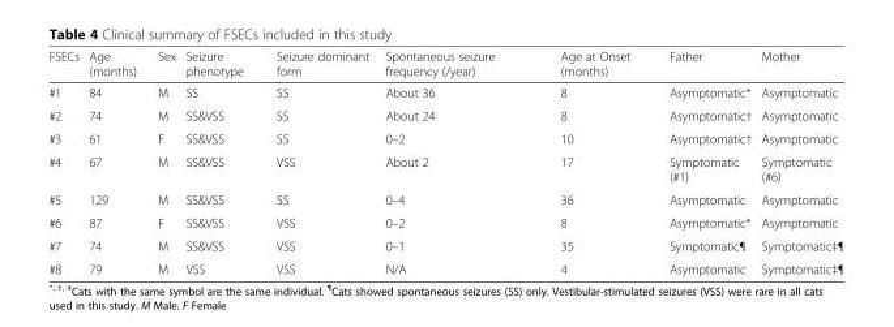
<table><thead><tr><td>FSECs</td><td>Age (months)</td><td>Sex</td><td>Seizure phenotype</td><td>Seizure dominant form</td><td>Spontaneous seizure frequency (/year)</td><td>Age at Onset (months)</td><td>Father</td><td>Mother</td></tr></thead><tbody><tr><td>#1</td><td>84</td><td>M</td><td>SS</td><td>SS</td><td>About 36</td><td>8</td><td>Asymptomatic*</td><td>Asymptomatic</td></tr><tr><td>#2</td><td>74</td><td>M</td><td>SS&amp;VSS</td><td>SS</td><td>About 24</td><td>8</td><td>Asymptomatic†</td><td>Asymptomatic</td></tr><tr><td>#3</td><td>61</td><td>F</td><td>SS&amp;VSS</td><td>SS</td><td>0–2</td><td>10</td><td>Asymptomatic†</td><td>Asymptomatic</td></tr><tr><td>#4</td><td>67</td><td>M</td><td>SS&amp;VSS</td><td>VSS</td><td>About 2</td><td>17</td><td>Symptomatic (#1)</td><td>Symptomatic (#6)</td></tr><tr><td>#5</td><td>129</td><td>M</td><td>SS&amp;VSS</td><td>SS</td><td>0–4</td><td>36</td><td>Asymptomatic</td><td>Asymptomatic</td></tr><tr><td>#6</td><td>87</td><td>F</td><td>SS&amp;VSS</td><td>VSS</td><td>0–2</td><td>8</td><td>Asymptomatic*</td><td>Asymptomatic</td></tr><tr><td>#7</td><td>74</td><td>M</td><td>SS&amp;VSS</td><td>VSS</td><td>0–1</td><td>35</td><td>Symptomatic¶</td><td>Symptomatic‡¶</td></tr><tr><td>#8</td><td>79</td><td>M</td><td>VSS</td><td>VSS</td><td>N/A</td><td>4</td><td>Asymptomatic</td><td>Symptomatic‡¶</td></tr></tbody></table>